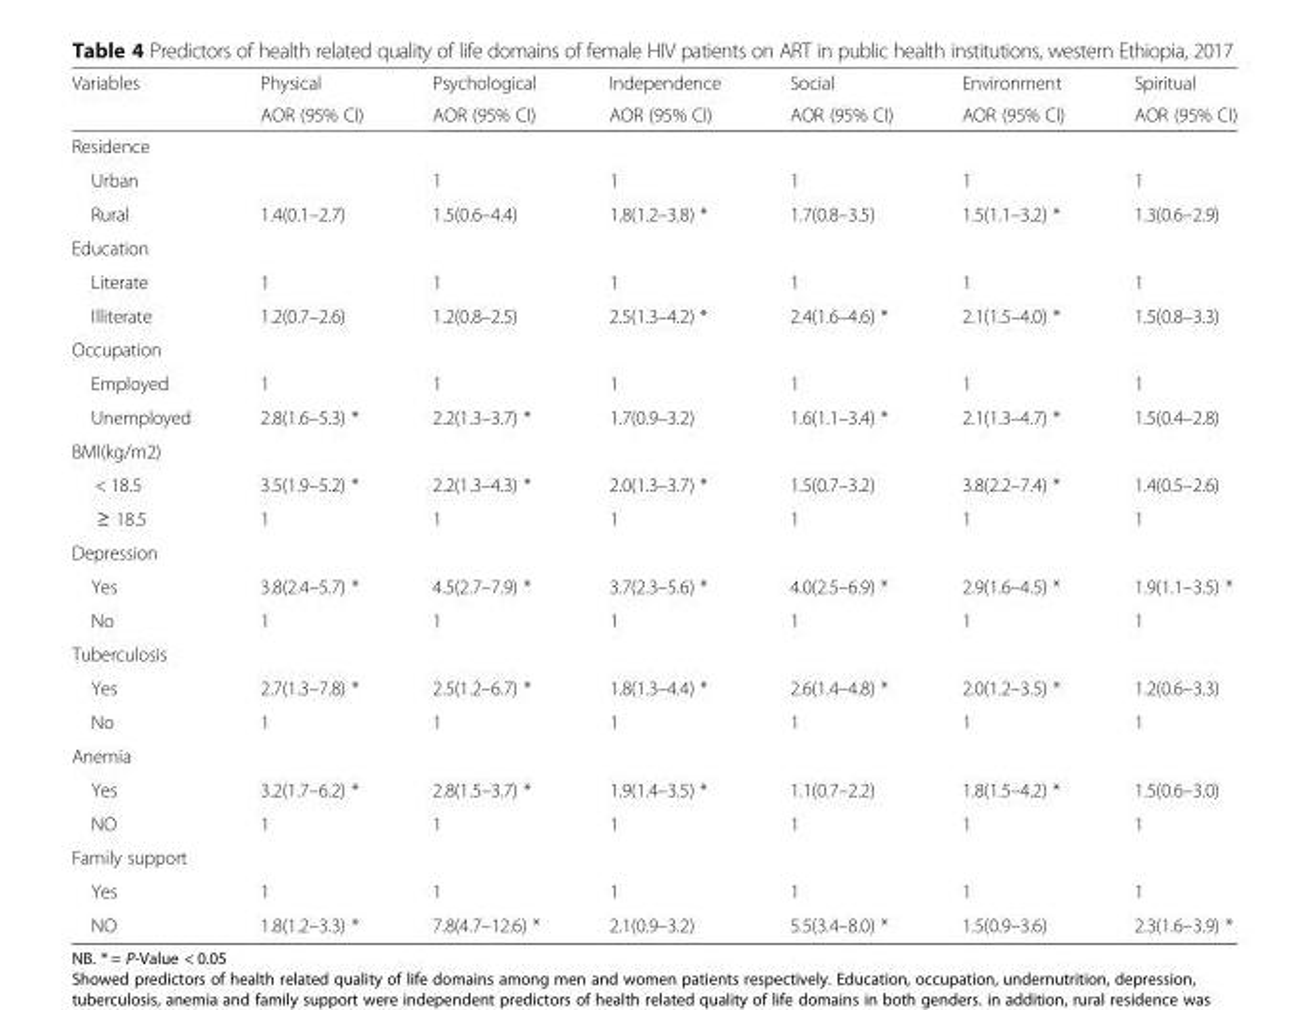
<table><thead><tr><td rowspan="2">Variables</td><td rowspan="2">Physical AOR (95% CI)</td><td rowspan="2">Psychological AOR (95% CI)</td><td rowspan="2">Independence AOR (95% CI)</td><td rowspan="2">Social AOR (95% CI)</td><td rowspan="2">Environment AOR (95% CI)</td><td rowspan="2">Spiritual AOR (95% CI)</td></tr><tr></tr></thead><tbody><tr><td colspan="7">Residence</td></tr><tr><td>Urban</td><td></td><td>1</td><td>1</td><td>1</td><td>1</td><td>1</td></tr><tr><td>Rural</td><td>1.4(0.1–2.7)</td><td>1.5(0.6–4.4)</td><td>1.8(1.2–3.8) *</td><td>1.7(0.8–3.5)</td><td>1.5(1.1–3.2) *</td><td>1.3(0.6–2.9)</td></tr><tr><td colspan="7">Education</td></tr><tr><td>Literate</td><td>1</td><td>1</td><td>1</td><td>1</td><td>1</td><td>1</td></tr><tr><td>Illiterate</td><td>1.2(0.7–2.6)</td><td>1.2(0.8–2.5)</td><td>2.5(1.3–4.2) *</td><td>2.4(1.6–4.6) *</td><td>2.1(1.5–4.0) *</td><td>1.5(0.8–3.3)</td></tr><tr><td colspan="7">Occupation</td></tr><tr><td>Employed</td><td>1</td><td>1</td><td>1</td><td>1</td><td>1</td><td>1</td></tr><tr><td>Unemployed</td><td>2.8(1.6–5.3) *</td><td>2.2(1.3–3.7) *</td><td>1.7(0.9–3.2)</td><td>1.6(1.1–3.4) *</td><td>2.1(1.3–4.7) *</td><td>1.5(0.4–2.8)</td></tr><tr><td colspan="7">BMI(kg/m2)</td></tr><tr><td>&lt; 18.5</td><td>3.5(1.9–5.2) *</td><td>2.2(1.3–4.3) *</td><td>2.0(1.3–3.7) *</td><td>1.5(0.7–3.2)</td><td>3.8(2.2–7.4) *</td><td>1.4(0.5–2.6)</td></tr><tr><td>≥ 18.5</td><td>1</td><td>1</td><td>1</td><td>1</td><td>1</td><td>1</td></tr><tr><td colspan="7">Depression</td></tr><tr><td>Yes</td><td>3.8(2.4–5.7) *</td><td>4.5(2.7–7.9) *</td><td>3.7(2.3–5.6) *</td><td>4.0(2.5–6.9) *</td><td>2.9(1.6–4.5) *</td><td>1.9(1.1–3.5) *</td></tr><tr><td>No</td><td>1</td><td>1</td><td>1</td><td>1</td><td>1</td><td>1</td></tr><tr><td colspan="7">Tuberculosis</td></tr><tr><td>Yes</td><td>2.7(1.3–7.8) *</td><td>2.5(1.2–6.7) *</td><td>1.8(1.3–4.4) *</td><td>2.6(1.4–4.8) *</td><td>2.0(1.2–3.5) *</td><td>1.2(0.6–3.3)</td></tr><tr><td>No</td><td>1</td><td>1</td><td>1</td><td>1</td><td>1</td><td>1</td></tr><tr><td colspan="7">Anemia</td></tr><tr><td>Yes</td><td>3.2(1.7–6.2) *</td><td>2.8(1.5–3.7) *</td><td>1.9(1.4–3.5) *</td><td>1.1(0.7–2.2)</td><td>1.8(1.5–4.2) *</td><td>1.5(0.6–3.0)</td></tr><tr><td>NO</td><td>1</td><td>1</td><td>1</td><td>1</td><td>1</td><td>1</td></tr><tr><td colspan="7">Family support</td></tr><tr><td>Yes</td><td>1</td><td>1</td><td>1</td><td>1</td><td>1</td><td>1</td></tr><tr><td>NO</td><td>1.8(1.2–3.3) *</td><td>7.8(4.7–12.6) *</td><td>2.1(0.9–3.2)</td><td>5.5(3.4–8.0) *</td><td>1.5(0.9–3.6)</td><td>2.3(1.6–3.9) *</td></tr></tbody></table>